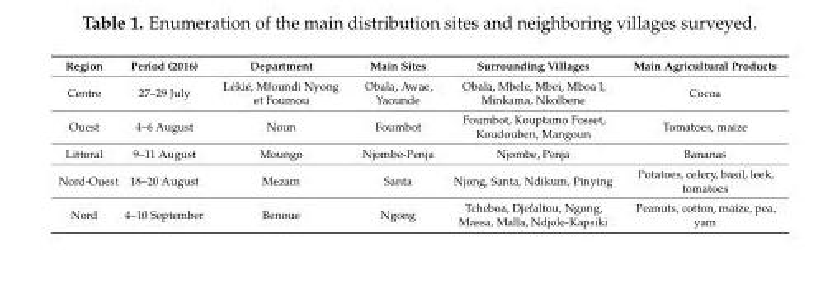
<table><thead><tr><td>Region</td><td>Period (2016)</td><td>Department</td><td>Main Sites</td><td>Surrounding Villages</td><td>Main Agricultural Products</td></tr></thead><tbody><tr><td>Centre</td><td>27–29 July</td><td>Lékié, Mfoundi Nyong et Foumou</td><td>Obala, Awae, Yaounde</td><td>Obala, Mbele, Mbei, Mboa I, Minkama, Nkolbene</td><td>Cocoa</td></tr><tr><td>Ouest</td><td>4–6 August</td><td>Noun</td><td>Foumbot</td><td>Foumbot, Kouptamo Fosset, Koudouben, Mangoun</td><td>Tomatoes, maize</td></tr><tr><td>Littoral</td><td>9–11 August</td><td>Moungo</td><td>Njombe-Penja</td><td>Njombe, Penja</td><td>Bananas</td></tr><tr><td>Nord-Ouest</td><td>18–20 August</td><td>Mezam</td><td>Santa</td><td>Njong, Santa, Ndikum, Pinying</td><td>Potatoes, celery, basil, leek, tomatoes</td></tr><tr><td>Nord</td><td>4–10 September</td><td>Benoue</td><td>Ngong</td><td>Tcheboa, Djefaltou, Ngong, Massa, Malla, Ndjole-Kapsiki</td><td>Peanuts, cotton, maize, pea, yam</td></tr></tbody></table>